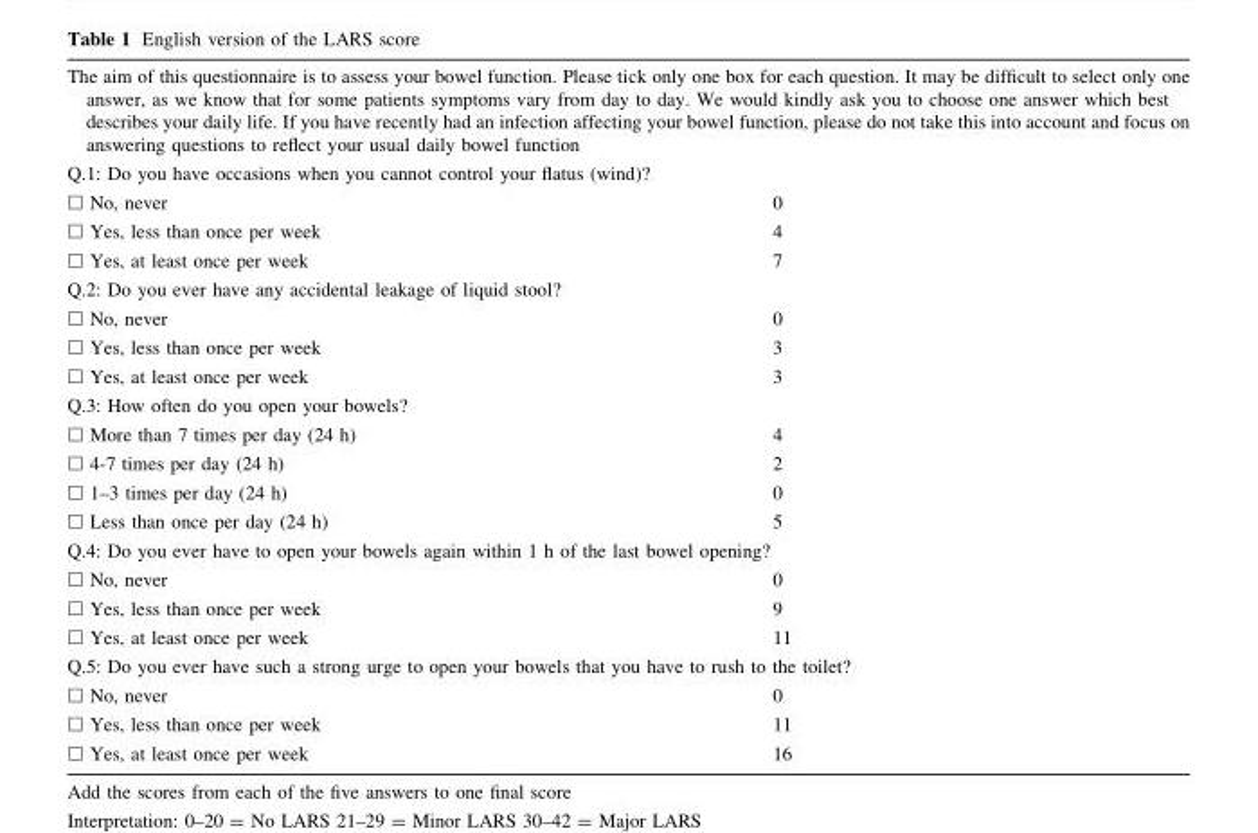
<table><tbody><tr><td colspan="2">The aim of this questionnaire is to assess your bowel function. Please tick only one box for each question. It may be difficult to select only one answer, as we know that for some patients symptoms vary from day to day. We would kindly ask you to choose one answer which best describes your daily life. If you have recently had an infection affecting your bowel function, please do not take this into account and focus on answering questions to reflect your usual daily bowel function</td></tr><tr><td colspan="2">Q.1: Do you have occasions when you cannot control your flatus (wind)?</td></tr><tr><td>□ No, never</td><td>0</td></tr><tr><td>□ Yes, less than once per week</td><td>4</td></tr><tr><td>□ Yes, at least once per week</td><td>7</td></tr><tr><td colspan="2">Q.2: Do you ever have any accidental leakage of liquid stool?</td></tr><tr><td>□ No, never</td><td>0</td></tr><tr><td>□ Yes, less than once per week</td><td>3</td></tr><tr><td>□ Yes, at least once per week</td><td>3</td></tr><tr><td colspan="2">Q.3: How often do you open your bowels?</td></tr><tr><td>□ More than 7 times per day (24 h)</td><td>4</td></tr><tr><td>□ 4-7 times per day (24 h)</td><td>2</td></tr><tr><td>□ 1–3 times per day (24 h)</td><td>0</td></tr><tr><td>□ Less than once per day (24 h)</td><td>5</td></tr><tr><td colspan="2">Q.4: Do you ever have to open your bowels again within 1 h of the last bowel opening?</td></tr><tr><td>□ No, never</td><td>0</td></tr><tr><td>□ Yes, less than once per week</td><td>9</td></tr><tr><td>□ Yes, at least once per week</td><td>11</td></tr><tr><td colspan="2">Q.5: Do you ever have such a strong urge to open your bowels that you have to rush to the toilet?</td></tr><tr><td>□ No, never</td><td>0</td></tr><tr><td>□ Yes, less than once per week</td><td>11</td></tr><tr><td>□ Yes, at least once per week</td><td>16</td></tr></tbody></table>